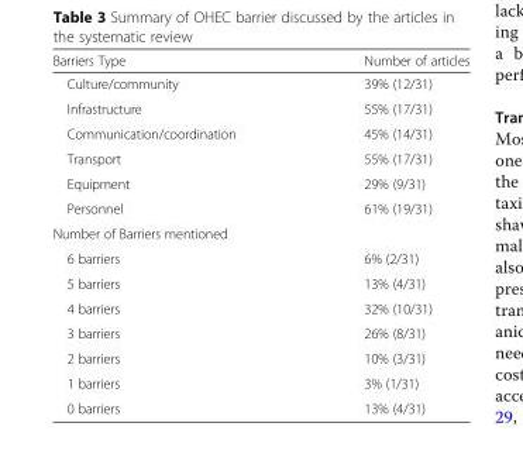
<table><thead><tr><td>Barriers Type</td><td>Number of articles</td></tr></thead><tbody><tr><td>Culture/community</td><td>39% (12/31)</td></tr><tr><td>Infrastructure</td><td>55% (17/31)</td></tr><tr><td>Communication/coordination</td><td>45% (14/31)</td></tr><tr><td>Transport</td><td>55% (17/31)</td></tr><tr><td>Equipment</td><td>29% (9/31)</td></tr><tr><td>Personnel</td><td>61% (19/31)</td></tr><tr><td colspan="2">Number of Barriers mentioned</td></tr><tr><td>6 barriers</td><td>6% (2/31)</td></tr><tr><td>5 barriers</td><td>13% (4/31)</td></tr><tr><td>4 barriers</td><td>32% (10/31)</td></tr><tr><td>3 barriers</td><td>26% (8/31)</td></tr><tr><td>2 barriers</td><td>10% (3/31)</td></tr><tr><td>1 barriers</td><td>3% (1/31)</td></tr><tr><td>0 barriers</td><td>13% (4/31)</td></tr></tbody></table>